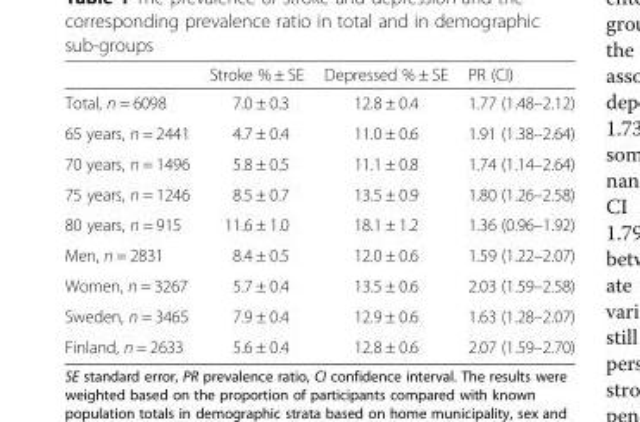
<table><thead><tr><td></td><td>Stroke % ± SE</td><td>Depressed % ± SE</td><td>PR (CI)</td></tr></thead><tbody><tr><td>Total, n = 6098</td><td>7.0 ± 0.3</td><td>12.8 ± 0.4</td><td>1.77 (1.48–2.12)</td></tr><tr><td>65 years, n = 2441</td><td>4.7 ± 0.4</td><td>11.0 ± 0.6</td><td>1.91 (1.38–2.64)</td></tr><tr><td>70 years, n = 1496</td><td>5.8 ± 0.5</td><td>11.1 ± 0.8</td><td>1.74 (1.14–2.64)</td></tr><tr><td>75 years, n = 1246</td><td>8.5 ± 0.7</td><td>13.5 ± 0.9</td><td>1.80 (1.26–2.58)</td></tr><tr><td>80 years, n = 915</td><td>11.6 ± 1.0</td><td>18.1 ± 1.2</td><td>1.36 (0.96–1.92)</td></tr><tr><td>Men, n = 2831</td><td>8.4 ± 0.5</td><td>12.0 ± 0.6</td><td>1.59 (1.22–2.07)</td></tr><tr><td>Women, n = 3267</td><td>5.7 ± 0.4</td><td>13.5 ± 0.6</td><td>2.03 (1.59–2.58)</td></tr><tr><td>Sweden, n = 3465</td><td>7.9 ± 0.4</td><td>12.9 ± 0.6</td><td>1.63 (1.28–2.07)</td></tr><tr><td>Finland, n = 2633</td><td>5.6 ± 0.4</td><td>12.8 ± 0.6</td><td>2.07 (1.59–2.70)</td></tr></tbody></table>